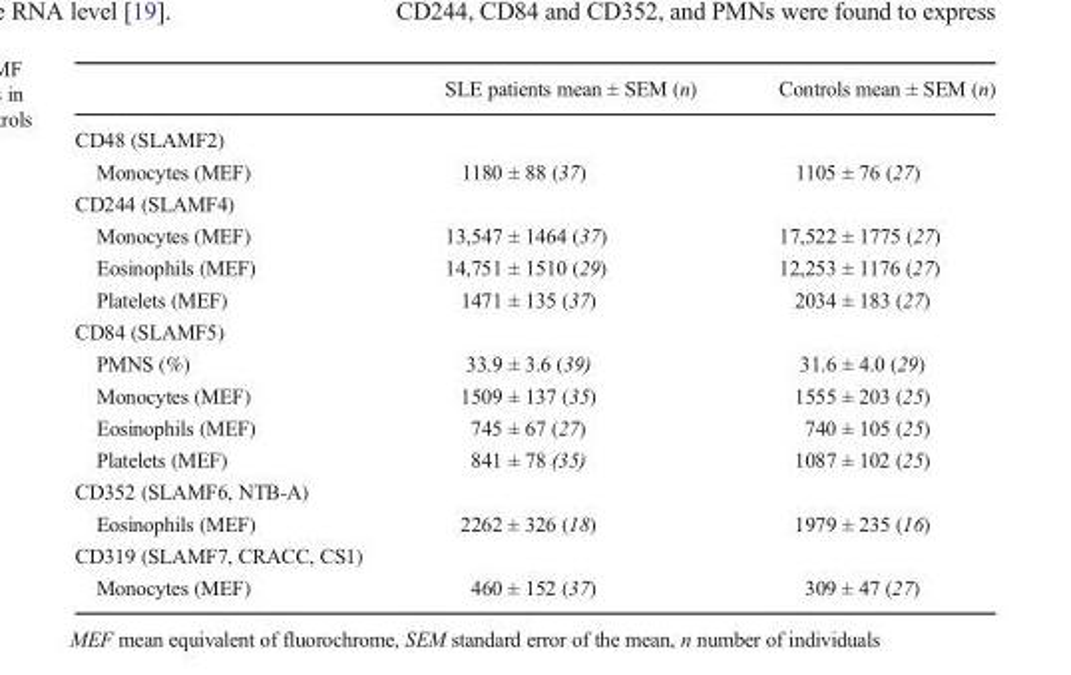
<table><thead><tr><td></td><td>SLE patients mean ± SEM (n)</td><td>Controls mean ± SEM (n)</td></tr></thead><tbody><tr><td colspan="3">CD48 (SLAMF2)</td></tr><tr><td>Monocytes (MEF)</td><td>1180 ± 88 (37)</td><td>1105 ± 76 (27)</td></tr><tr><td colspan="3">CD244 (SLAMF4)</td></tr><tr><td>Monocytes (MEF)</td><td>13,547 ± 1464 (37)</td><td>17,522 ± 1775 (27)</td></tr><tr><td>Eosinophils (MEF)</td><td>14,751 ± 1510 (29)</td><td>12,253 ± 1176 (27)</td></tr><tr><td>Platelets (MEF)</td><td>1471 ± 135 (37)</td><td>2034 ± 183 (27)</td></tr><tr><td colspan="3">CD84 (SLAMF5)</td></tr><tr><td>PMNS (%)</td><td>33.9 ± 3.6 (39)</td><td>31.6 ± 4.0 (29)</td></tr><tr><td>Monocytes (MEF)</td><td>1509 ± 137 (35)</td><td>1555 ± 203 (25)</td></tr><tr><td>Eosinophils (MEF)</td><td>745 ± 67 (27)</td><td>740 ± 105 (25)</td></tr><tr><td>Platelets (MEF)</td><td>841 ± 78 (35)</td><td>1087 ± 102 (25)</td></tr><tr><td colspan="3">CD352 (SLAMF6, NTB-A)</td></tr><tr><td>Eosinophils (MEF)</td><td>2262 ± 326 (18)</td><td>1979 ± 235 (16)</td></tr><tr><td colspan="3">CD319 (SLAMF7, CRACC, CS1)</td></tr><tr><td>Monocytes (MEF)</td><td>460 ± 152 (37)</td><td>309 ± 47 (27)</td></tr></tbody></table>